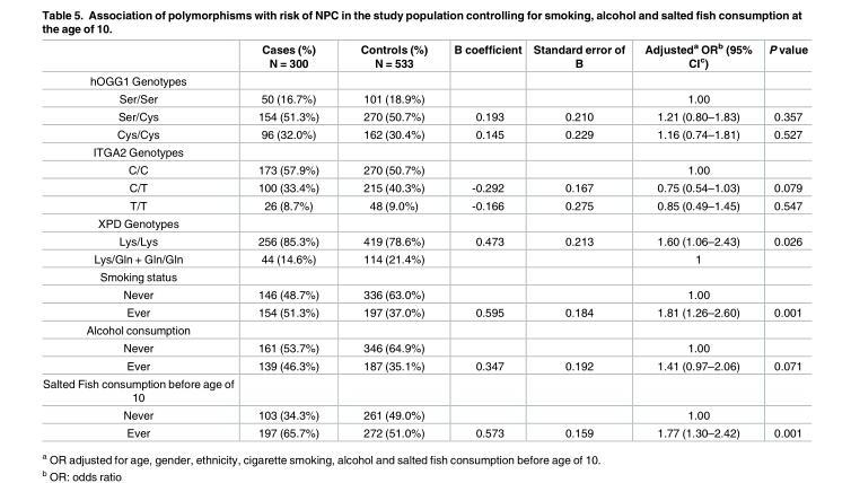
<table><thead><tr><td></td><td>Cases (%) N = 300</td><td>Controls (%) N = 533</td><td>B coefficient</td><td>Standard error of B</td><td>Adjusted<sup>a</sup> OR<sup>b</sup> (95% CI<sup>c</sup>)</td><td>P value</td></tr></thead><tbody><tr><td colspan="7">hOGG1 Genotypes</td></tr><tr><td>Ser/Ser</td><td>50 (16.7%)</td><td>101 (18.9%)</td><td></td><td></td><td>1.00</td><td></td></tr><tr><td>Ser/Cys</td><td>154 (51.3%)</td><td>270 (50.7%)</td><td>0.193</td><td>0.210</td><td>1.21 (0.80–1.83)</td><td>0.357</td></tr><tr><td>Cys/Cys</td><td>96 (32.0%)</td><td>162 (30.4%)</td><td>0.145</td><td>0.229</td><td>1.16 (0.74–1.81)</td><td>0.527</td></tr><tr><td colspan="7">ITGA2 Genotypes</td></tr><tr><td>C/C</td><td>173 (57.9%)</td><td>270 (50.7%)</td><td></td><td></td><td>1.00</td><td></td></tr><tr><td>C/T</td><td>100 (33.4%)</td><td>215 (40.3%)</td><td>-0.292</td><td>0.167</td><td>0.75 (0.54–1.03)</td><td>0.079</td></tr><tr><td>T/T</td><td>26 (8.7%)</td><td>48 (9.0%)</td><td>-0.166</td><td>0.275</td><td>0.85 (0.49–1.45)</td><td>0.547</td></tr><tr><td colspan="7">XPD Genotypes</td></tr><tr><td>Lys/Lys</td><td>256 (85.3%)</td><td>419 (78.6%)</td><td>0.473</td><td>0.213</td><td>1.60 (1.06–2.43)</td><td>0.026</td></tr><tr><td>Lys/Gln + Gln/Gln</td><td>44 (14.6%)</td><td>114 (21.4%)</td><td></td><td></td><td>1</td><td></td></tr><tr><td colspan="7">Smoking status</td></tr><tr><td>Never</td><td>146 (48.7%)</td><td>336 (63.0%)</td><td></td><td></td><td>1.00</td><td></td></tr><tr><td>Ever</td><td>154 (51.3%)</td><td>197 (37.0%)</td><td>0.595</td><td>0.184</td><td>1.81 (1.26–2.60)</td><td>0.001</td></tr><tr><td colspan="7">Alcohol consumption</td></tr><tr><td>Never</td><td>161 (53.7%)</td><td>346 (64.9%)</td><td></td><td></td><td>1.00</td><td></td></tr><tr><td>Ever</td><td>139 (46.3%)</td><td>187 (35.1%)</td><td>0.347</td><td>0.192</td><td>1.41 (0.97–2.06)</td><td>0.071</td></tr><tr><td colspan="7">Salted Fish consumption before age of 10</td></tr><tr><td>Never</td><td>103 (34.3%)</td><td>261 (49.0%)</td><td></td><td></td><td>1.00</td><td></td></tr><tr><td>Ever</td><td>197 (65.7%)</td><td>272 (51.0%)</td><td>0.573</td><td>0.159</td><td>1.77 (1.30–2.42)</td><td>0.001</td></tr></tbody></table>